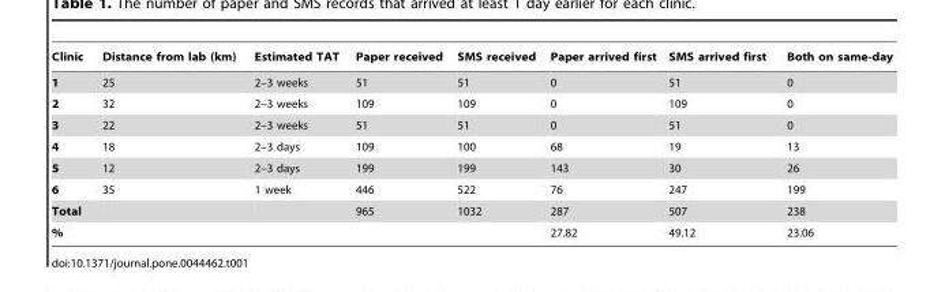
<table><thead><tr><td>Clinic</td><td>Distance from lab (km)</td><td>Estimated TAT</td><td>Paper received</td><td>SMS received</td><td>Paper arrived first</td><td>SMS arrived first</td><td>Both on same-day</td></tr></thead><tbody><tr><td>1</td><td>25</td><td>2–3 weeks</td><td>51</td><td>51</td><td>0</td><td>51</td><td>0</td></tr><tr><td>2</td><td>32</td><td>2–3 weeks</td><td>109</td><td>109</td><td>0</td><td>109</td><td>0</td></tr><tr><td>3</td><td>22</td><td>2–3 weeks</td><td>51</td><td>51</td><td>0</td><td>51</td><td>0</td></tr><tr><td>4</td><td>18</td><td>2–3 days</td><td>109</td><td>100</td><td>68</td><td>19</td><td>13</td></tr><tr><td>5</td><td>12</td><td>2–3 days</td><td>199</td><td>199</td><td>143</td><td>30</td><td>26</td></tr><tr><td>6</td><td>35</td><td>1 week</td><td>446</td><td>522</td><td>76</td><td>247</td><td>199</td></tr><tr><td>Total</td><td></td><td></td><td>965</td><td>1032</td><td>287</td><td>507</td><td>238</td></tr><tr><td>%</td><td></td><td></td><td></td><td></td><td>27.82</td><td>49.12</td><td>23.06</td></tr></tbody></table>